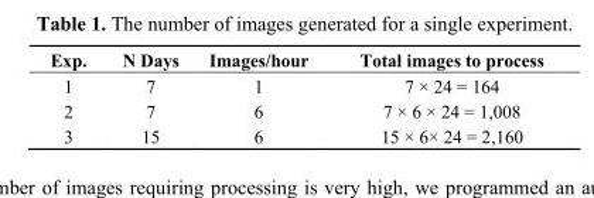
<table><thead><tr><td>Exp.</td><td>N Days</td><td>Images/hour</td><td>Total images to process</td></tr></thead><tbody><tr><td>1</td><td>7</td><td>1</td><td>7 × 24 = 164</td></tr><tr><td>2</td><td>7</td><td>6</td><td>7 × 6 × 24 = 1,008</td></tr><tr><td>3</td><td>15</td><td>6</td><td>15 × 6× 24 = 2,160</td></tr></tbody></table>